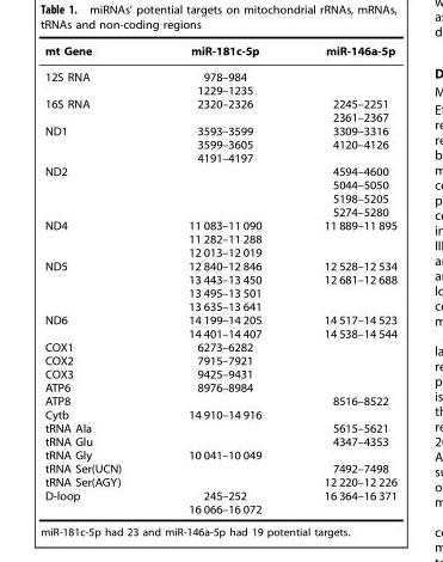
<table><thead><tr><td>mt Gene</td><td>miR-181c-5p</td><td>miR-146a-5p</td></tr></thead><tbody><tr><td rowspan="2">12S RNA</td><td>978–984</td><td></td></tr><tr><td>1229–1235</td><td></td></tr><tr><td rowspan="2">16S RNA</td><td>2320–2326</td><td>2245–2251</td></tr><tr><td></td><td>2361–2367</td></tr><tr><td rowspan="3">ND1</td><td>3593–3599</td><td>3309–3316</td></tr><tr><td>3599–3605</td><td>4120–4126</td></tr><tr><td>4191–4197</td><td></td></tr><tr><td rowspan="4">ND2</td><td></td><td>4594–4600</td></tr><tr><td></td><td>5044–5050</td></tr><tr><td></td><td>5198–5205</td></tr><tr><td></td><td>5274–5280</td></tr><tr><td rowspan="3">ND4</td><td>11 083–11 090</td><td>11 889–11 895</td></tr><tr><td>11 282–11 288</td><td></td></tr><tr><td>12 013–12 019</td><td></td></tr><tr><td rowspan="4">ND5</td><td>12 840–12 846</td><td>12 528–12 534</td></tr><tr><td>13 443–13 450</td><td>12 681–12 688</td></tr><tr><td>13 495–13 501</td><td></td></tr><tr><td>13 635–13 641</td><td></td></tr><tr><td rowspan="2">ND6</td><td>14 199–14 205</td><td>14 517–14 523</td></tr><tr><td>14 401–14 407</td><td>14 538–14 544</td></tr><tr><td>COX1</td><td>6273–6282</td><td></td></tr><tr><td>COX2</td><td>7915–7921</td><td></td></tr><tr><td>COX3</td><td>9425–9431</td><td></td></tr><tr><td>ATP6</td><td>8976–8984</td><td></td></tr><tr><td>ATP8</td><td></td><td>8516–8522</td></tr><tr><td>Cytb</td><td>14 910–14 916</td><td></td></tr><tr><td>tRNA Ala</td><td></td><td>5615–5621</td></tr><tr><td>tRNA Glu</td><td></td><td>4347–4353</td></tr><tr><td>tRNA Gly</td><td>10 041–10 049</td><td></td></tr><tr><td>tRNA Ser(UCN)</td><td></td><td>7492–7498</td></tr><tr><td>tRNA Ser(AGY)</td><td></td><td>12 220–12 226</td></tr><tr><td rowspan="2">D-loop</td><td>245–252</td><td>16 364–16 371</td></tr><tr><td>16 066–16 072</td><td></td></tr></tbody></table>